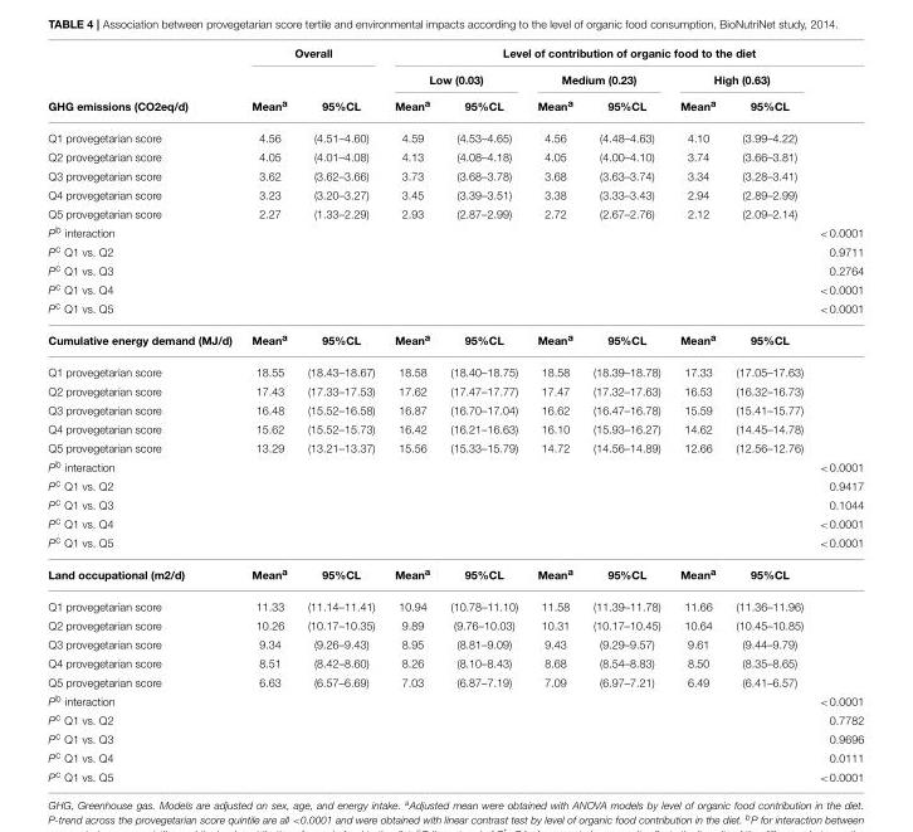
<table><thead><tr><td rowspan="3">GHG emissions (CO2eq/d)</td><td colspan="2">Overall</td><td colspan="7">Level of contribution of organic food to the diet</td></tr><tr><td rowspan="2">Meana</td><td rowspan="2">95%CL</td><td colspan="2">Low (0.03)</td><td colspan="2">Medium (0.23)</td><td colspan="2">High (0.63)</td><td rowspan="2"></td></tr><tr><td>Meana</td><td>95%CL</td><td>Mean<sup>a</sup></td><td>95%CL</td><td>Mean<sup>a</sup></td><td>95%CL</td></tr></thead><tbody><tr><td>Q1 provegetarian score</td><td>4.56</td><td>(4.51–4.60)</td><td>4.59</td><td>(4.53–4.65)</td><td>4.56</td><td>(4.48–4.63)</td><td>4.10</td><td>(3.99–4.22)</td><td></td></tr><tr><td>Q2 provegetarian score</td><td>4.05</td><td>(4.01–4.08)</td><td>4.13</td><td>(4.08–4.18)</td><td>4.05</td><td>(4.00–4.10)</td><td>3.74</td><td>(3.66–3.81)</td><td></td></tr><tr><td>Q3 provegetarian score</td><td>3.62</td><td>(3.62–3.66)</td><td>3.73</td><td>(3.68–3.78)</td><td>3.68</td><td>(3.63–3.74)</td><td>3.34</td><td>(3.28–3.41)</td><td></td></tr><tr><td>Q4 provegetarian score</td><td>3.23</td><td>(3.20–3.27)</td><td>3.45</td><td>(3.39–3.51)</td><td>3.38</td><td>(3.33–3.43)</td><td>2.94</td><td>(2.89–2.99)</td><td></td></tr><tr><td>Q5 provegetarian score</td><td>2.27</td><td>(1.33–2.29)</td><td>2.93</td><td>(2.87–2.99)</td><td>2.72</td><td>(2.67–2.76)</td><td>2.12</td><td>(2.09–2.14)</td><td></td></tr><tr><td>P<sup>b</sup> interaction</td><td></td><td></td><td></td><td></td><td></td><td></td><td></td><td></td><td>&lt;0.0001</td></tr><tr><td>P<sup>c</sup> Q1 vs. Q2</td><td></td><td></td><td></td><td></td><td></td><td></td><td></td><td></td><td>0.9711</td></tr><tr><td>P<sup>c</sup> Q1 vs. Q3</td><td></td><td></td><td></td><td></td><td></td><td></td><td></td><td></td><td>0.2764</td></tr><tr><td>P<sup>c</sup> Q1 vs. Q4</td><td></td><td></td><td></td><td></td><td></td><td></td><td></td><td></td><td>&lt;0.0001</td></tr><tr><td>P<sup>c</sup> Q1 vs. Q5</td><td></td><td></td><td></td><td></td><td></td><td></td><td></td><td></td><td>&lt;0.0001</td></tr><tr><td>Cumulative energy demand (MJ/d)</td><td>Mean<sup>a</sup></td><td>95%CL</td><td>Mean<sup>a</sup></td><td>95%CL</td><td>Mean<sup>a</sup></td><td>95%CL</td><td>Mean<sup>a</sup></td><td>95%CL</td><td></td></tr><tr><td>Q1 provegetarian score</td><td>18.55</td><td>(18.43–18.67)</td><td>18.58</td><td>(18.40–18.75)</td><td>18.58</td><td>(18.39–18.78)</td><td>17.33</td><td>(17.05–17.63)</td><td></td></tr><tr><td>Q2 provegetarian score</td><td>17.43</td><td>(17.33–17.53)</td><td>17.62</td><td>(17.47–17.77)</td><td>17.47</td><td>(17.32–17.63)</td><td>16.53</td><td>(16.32–16.73)</td><td></td></tr><tr><td>Q3 provegetarian score</td><td>16.48</td><td>(15.52–16.58)</td><td>16.87</td><td>(16.70–17.04)</td><td>16.62</td><td>(16.47–16.78)</td><td>15.59</td><td>(15.41–15.77)</td><td></td></tr><tr><td>Q4 provegetarian score</td><td>15.62</td><td>(15.52–15.73)</td><td>16.42</td><td>(16.21–16.63)</td><td>16.10</td><td>(15.93–16.27)</td><td>14.62</td><td>(14.45–14.78)</td><td></td></tr><tr><td>Q5 provegetarian score</td><td>13.29</td><td>(13.21–13.37)</td><td>15.56</td><td>(15.33–15.79)</td><td>14.72</td><td>(14.56–14.89)</td><td>12.66</td><td>(12.56–12.76)</td><td></td></tr><tr><td>P<sup>b</sup> interaction</td><td></td><td></td><td></td><td></td><td></td><td></td><td></td><td></td><td>&lt;0.0001</td></tr><tr><td>P<sup>c</sup> Q1 vs. Q2</td><td></td><td></td><td></td><td></td><td></td><td></td><td></td><td></td><td>0.9417</td></tr><tr><td>P<sup>c</sup> Q1 vs. Q3</td><td></td><td></td><td></td><td></td><td></td><td></td><td></td><td></td><td>0.1044</td></tr><tr><td>P<sup>c</sup> Q1 vs. Q4</td><td></td><td></td><td></td><td></td><td></td><td></td><td></td><td></td><td>&lt;0.0001</td></tr><tr><td>P<sup>c</sup> Q1 vs. Q5</td><td></td><td></td><td></td><td></td><td></td><td></td><td></td><td></td><td>&lt;0.0001</td></tr><tr><td>Land occupational (m2/d)</td><td>Mean<sup>a</sup></td><td>95%CL</td><td>Mean<sup>a</sup></td><td>95%CL</td><td>Mean<sup>a</sup></td><td>95%CL</td><td>Mean<sup>a</sup></td><td>95%CL</td><td></td></tr><tr><td>Q1 provegetarian score</td><td>11.33</td><td>(11.14–11.41)</td><td>10.94</td><td>(10.78–11.10)</td><td>11.58</td><td>(11.39–11.78)</td><td>11.66</td><td>(11.36–11.96)</td><td></td></tr><tr><td>Q2 provegetarian score</td><td>10.26</td><td>(10.17–10.35)</td><td>9.89</td><td>(9.76–10.03)</td><td>10.31</td><td>(10.17–10.45)</td><td>10.64</td><td>(10.45–10.85)</td><td></td></tr><tr><td>Q3 provegetarian score</td><td>9.34</td><td>(9.26–9.43)</td><td>8.95</td><td>(8.81–9.09)</td><td>9.43</td><td>(9.29–9.57)</td><td>9.61</td><td>(9.44–9.79)</td><td></td></tr><tr><td>Q4 provegetarian score</td><td>8.51</td><td>(8.42–8.60)</td><td>8.26</td><td>(8.10–8.43)</td><td>8.68</td><td>(8.54–8.83)</td><td>8.50</td><td>(8.35–8.65)</td><td></td></tr><tr><td>Q5 provegetarian score</td><td>6.63</td><td>(6.57–6.69)</td><td>7.03</td><td>(6.87–7.19)</td><td>7.09</td><td>(6.97–7.21)</td><td>6.49</td><td>(6.41–6.57)</td><td></td></tr><tr><td>P<sup>b</sup> interaction</td><td></td><td></td><td></td><td></td><td></td><td></td><td></td><td></td><td>&lt;0.0001</td></tr><tr><td>P<sup>c</sup> Q1 vs. Q2</td><td></td><td></td><td></td><td></td><td></td><td></td><td></td><td></td><td>0.7782</td></tr><tr><td>P<sup>c</sup> Q1 vs. Q3</td><td></td><td></td><td></td><td></td><td></td><td></td><td></td><td></td><td>0.9696</td></tr><tr><td>P<sup>c</sup> Q1 vs. Q4</td><td></td><td></td><td></td><td></td><td></td><td></td><td></td><td></td><td>0.0111</td></tr><tr><td>P<sup>c</sup> Q1 vs. Q5</td><td></td><td></td><td></td><td></td><td></td><td></td><td></td><td></td><td>&lt;0.0001</td></tr></tbody></table>